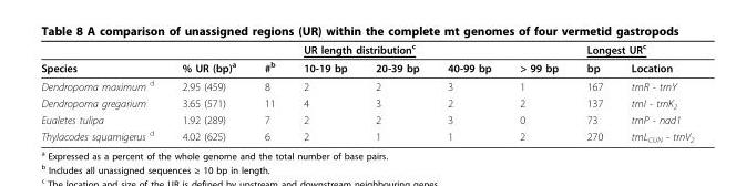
<table><thead><tr><td rowspan="2">Species</td><td rowspan="2">% UR (bp)<sup>a</sup></td><td rowspan="2">#<sup>b</sup></td><td colspan="4">UR length distribution<sup>c</sup></td><td colspan="2">Longest UR<sup>c</sup></td></tr><tr><td>10-19 bp</td><td>20-39 bp</td><td>40-99 bp</td><td>&gt; 99 bp</td><td>bp</td><td>Location</td></tr></thead><tbody><tr><td>Dendropoma maximum <sup>d</sup></td><td>2.95 (459)</td><td>8</td><td>2</td><td>2</td><td>3</td><td>1</td><td>167</td><td>trnR - trnY</td></tr><tr><td>Dendropoma gregarium</td><td>3.65 (571)</td><td>11</td><td>4</td><td>3</td><td>2</td><td>2</td><td>137</td><td>trnI - trnK<sub>2</sub></td></tr><tr><td>Eualetes tulipa</td><td>1.92 (289)</td><td>7</td><td>2</td><td>2</td><td>3</td><td>0</td><td>73</td><td>trnP - nad1</td></tr><tr><td>Thylacodes squamigerus <sup>d</sup></td><td>4.02 (625)</td><td>6</td><td>2</td><td>1</td><td>1</td><td>2</td><td>270</td><td>trnL<sub>CUN</sub> - trnV<sub>2</sub></td></tr></tbody></table>